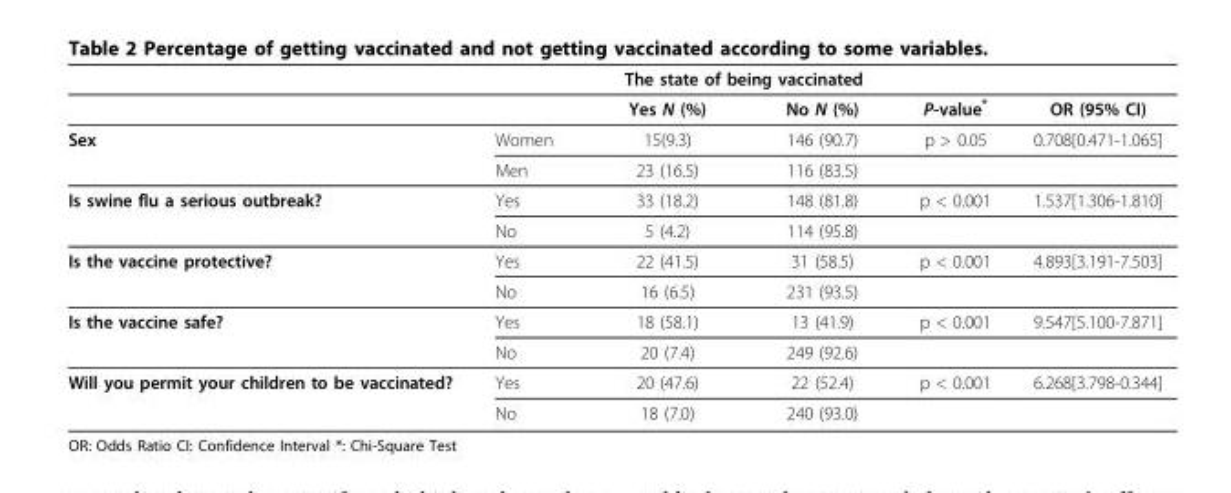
<table><thead><tr><td rowspan="2"></td><td rowspan="2"></td><td colspan="2">The state of being vaccinated</td><td rowspan="2">P-value*</td><td rowspan="2">OR (95% CI)</td></tr><tr><td>Yes N (%)</td><td>No N (%)</td></tr></thead><tbody><tr><td rowspan="2">Sex</td><td>Women</td><td>15(9.3)</td><td>146 (90.7)</td><td>p &gt; 0.05</td><td>0.708[0.471-1.065]</td></tr><tr><td>Men</td><td>23 (16.5)</td><td>116 (83.5)</td><td></td><td></td></tr><tr><td rowspan="2">Is swine flu a serious outbreak?</td><td>Yes</td><td>33 (18.2)</td><td>148 (81.8)</td><td>p &lt; 0.001</td><td>1.537[1.306-1.810]</td></tr><tr><td>No</td><td>5 (4.2)</td><td>114 (95.8)</td><td></td><td></td></tr><tr><td rowspan="2">Is the vaccine protective?</td><td>Yes</td><td>22 (41.5)</td><td>31 (58.5)</td><td>p &lt; 0.001</td><td>4.893[3.191-7.503]</td></tr><tr><td>No</td><td>16 (6.5)</td><td>231 (93.5)</td><td></td><td></td></tr><tr><td rowspan="2">Is the vaccine safe?</td><td>Yes</td><td>18 (58.1)</td><td>13 (41.9)</td><td>p &lt; 0.001</td><td>9.547[5.100-7.871]</td></tr><tr><td>No</td><td>20 (7.4)</td><td>249 (92.6)</td><td></td><td></td></tr><tr><td rowspan="2">Will you permit your children to be vaccinated?</td><td>Yes</td><td>20 (47.6)</td><td>22 (52.4)</td><td>p &lt; 0.001</td><td>6.268[3.798-0.344]</td></tr><tr><td>No</td><td>18 (7.0)</td><td>240 (93.0)</td><td></td><td></td></tr></tbody></table>